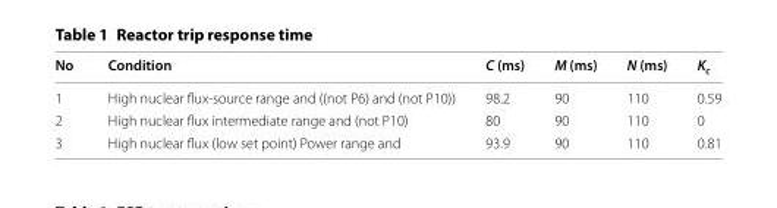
<table><thead><tr><td>No</td><td>Condition</td><td>C (ms)</td><td>M (ms)</td><td>N (ms)</td><td>K<sub>c</sub></td></tr></thead><tbody><tr><td>1</td><td>High nuclear flux‑source range and ((not P6) and (not P10))</td><td>98.2</td><td>90</td><td>110</td><td>0.59</td></tr><tr><td>2</td><td>High nuclear flux intermediate range and (not P10)</td><td>80</td><td>90</td><td>110</td><td>0</td></tr><tr><td>3</td><td>High nuclear flux (low set point) Power range and</td><td>93.9</td><td>90</td><td>110</td><td>0.81</td></tr></tbody></table>